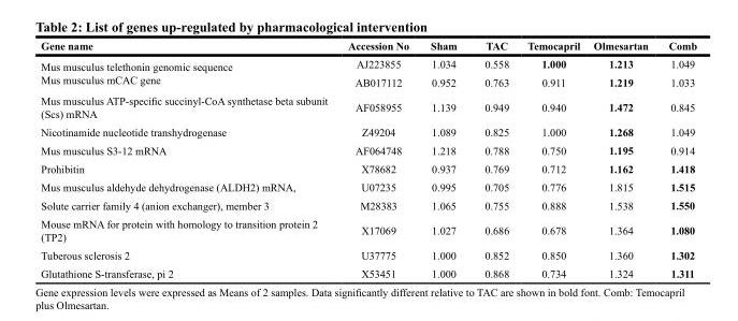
<table><thead><tr><td>Gene name</td><td>Accession No</td><td>Sham</td><td>TAC</td><td>Temocapril</td><td>Olmesartan</td><td>Comb</td></tr></thead><tbody><tr><td rowspan="2">Mus musculus telethonin genomic sequence Mus musculus mCAC gene</td><td>AJ223855</td><td>1.034</td><td>0.558</td><td>1.000</td><td>1.213</td><td>1.049</td></tr><tr><td>AB017112</td><td>0.952</td><td>0.763</td><td>0.911</td><td>1.219</td><td>1.033</td></tr><tr><td>Mus musculus ATP-specifi c succinyl-CoA synthetase beta subunit (Scs) mRNA</td><td>AF058955</td><td>1.139</td><td>0.949</td><td>0.940</td><td>1.472</td><td>0.845</td></tr><tr><td>Nicotinamide nucleotide transhydrogenase</td><td>Z49204</td><td>1.089</td><td>0.825</td><td>1.000</td><td>1.268</td><td>1.049</td></tr><tr><td>Mus musculus S3-12 mRNA</td><td>AF064748</td><td>1.218</td><td>0.788</td><td>0.750</td><td>1.195</td><td>0.914</td></tr><tr><td>Prohibitin</td><td>X78682</td><td>0.937</td><td>0.769</td><td>0.712</td><td>1.162</td><td>1.418</td></tr><tr><td>Mus musculus aldehyde dehydrogenase (ALDH2) mRNA,</td><td>U07235</td><td>0.995</td><td>0.705</td><td>0.776</td><td>1.815</td><td>1.515</td></tr><tr><td>Solute carrier family 4 (anion exchanger), member 3</td><td>M28383</td><td>1.065</td><td>0.755</td><td>0.888</td><td>1.538</td><td>1.550</td></tr><tr><td>Mouse mRNA for protein with homology to transition protein 2 (TP2)</td><td>X17069</td><td>1.027</td><td>0.686</td><td>0.678</td><td>1.364</td><td>1.080</td></tr><tr><td>Tuberous sclerosis 2</td><td>U37775</td><td>1.000</td><td>0.852</td><td>0.850</td><td>1.360</td><td>1.302</td></tr><tr><td>Glutathione S-transferase, pi 2</td><td>X53451</td><td>1.000</td><td>0.868</td><td>0.734</td><td>1.324</td><td>1.311</td></tr></tbody></table>